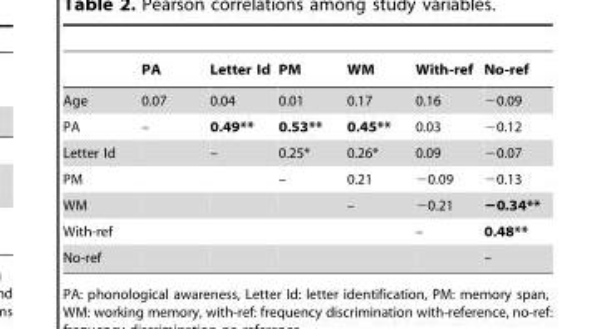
<table><thead><tr><td></td><td>PA</td><td>Letter Id</td><td>PM</td><td>WM</td><td>With-ref</td><td>No-ref</td></tr></thead><tbody><tr><td>Age</td><td>0.07</td><td>0.04</td><td>0.01</td><td>0.17</td><td>0.16</td><td>−0.09</td></tr><tr><td>PA</td><td>–</td><td>0.49**</td><td>0.53**</td><td>0.45**</td><td>0.03</td><td>−0.12</td></tr><tr><td>Letter Id</td><td></td><td>–</td><td>0.25*</td><td>0.26*</td><td>0.09</td><td>−0.07</td></tr><tr><td>PM</td><td></td><td></td><td>–</td><td>0.21</td><td>−0.09</td><td>−0.13</td></tr><tr><td>WM</td><td></td><td></td><td></td><td>–</td><td>−0.21</td><td>−0.34**</td></tr><tr><td>With-ref</td><td></td><td></td><td></td><td></td><td>–</td><td>0.48**</td></tr><tr><td>No-ref</td><td></td><td></td><td></td><td></td><td></td><td>–</td></tr></tbody></table>